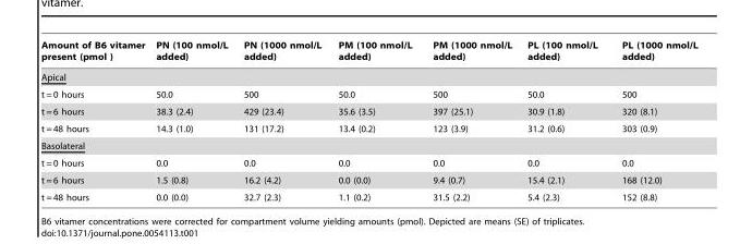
<table><thead><tr><td>Amount of B6 vitamer present (pmol )</td><td>PN (100 nmol/L added)</td><td>PN (1000 nmol/L added)</td><td>PM (100 nmol/L added)</td><td>PM (1000 nmol/L added)</td><td>PL (100 nmol/L added)</td><td>PL (1000 nmol/L added)</td></tr></thead><tbody><tr><td colspan="7">Apical</td></tr><tr><td>t = 0 hours</td><td>50.0</td><td>500</td><td>50.0</td><td>500</td><td>50.0</td><td>500</td></tr><tr><td>t = 6 hours</td><td>38.3 (2.4)</td><td>429 (23.4)</td><td>35.6 (3.5)</td><td>397 (25.1)</td><td>30.9 (1.8)</td><td>320 (8.1)</td></tr><tr><td>t = 48 hours</td><td>14.3 (1.0)</td><td>131 (17.2)</td><td>13.4 (0.2)</td><td>123 (3.9)</td><td>31.2 (0.6)</td><td>303 (0.9)</td></tr><tr><td colspan="7">Basolateral</td></tr><tr><td>t = 0 hours</td><td>0.0</td><td>0.0</td><td>0.0</td><td>0.0</td><td>0.0</td><td>0.0</td></tr><tr><td>t = 6 hours</td><td>1.5 (0.8)</td><td>16.2 (4.2)</td><td>0.0 (0.0)</td><td>9.4 (0.7)</td><td>15.4 (2.1)</td><td>168 (12.0)</td></tr><tr><td>t = 48 hours</td><td>0.0 (0.0)</td><td>32.7 (2.3)</td><td>1.1 (0.2)</td><td>31.5 (2.2)</td><td>5.4 (2.3)</td><td>152 (8.8)</td></tr></tbody></table>